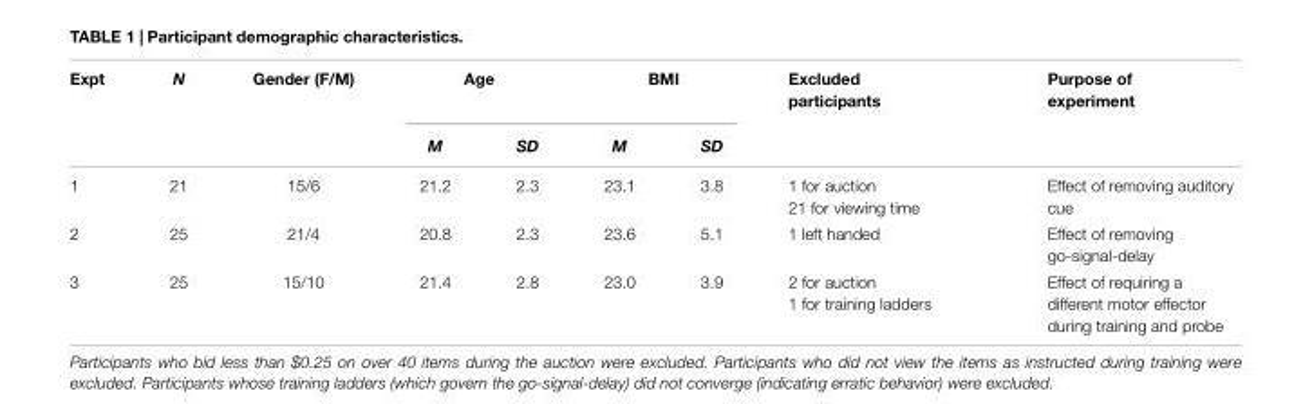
<table><thead><tr><td rowspan="2">Expt</td><td rowspan="2">N</td><td rowspan="2">Gender (F/M)</td><td colspan="2">Age</td><td colspan="2">BMI</td><td rowspan="2">Excluded participants</td><td rowspan="2">Purpose of experiment</td></tr><tr><td>M</td><td>SD</td><td>M</td><td>SD</td></tr></thead><tbody><tr><td>1</td><td>21</td><td>15/6</td><td>21.2</td><td>2.3</td><td>23.1</td><td>3.8</td><td>1 for auction 21 for viewing time</td><td>Effect of removing auditory cue</td></tr><tr><td>2</td><td>25</td><td>21/4</td><td>20.8</td><td>2.3</td><td>23.6</td><td>5.1</td><td>1 left handed</td><td>Effect of removing go-signal-delay</td></tr><tr><td>3</td><td>25</td><td>15/10</td><td>21.4</td><td>2.8</td><td>23.0</td><td>3.9</td><td>2 for auction 1 for training ladders</td><td>Effect of requiring a different motor effector during training and probe</td></tr></tbody></table>